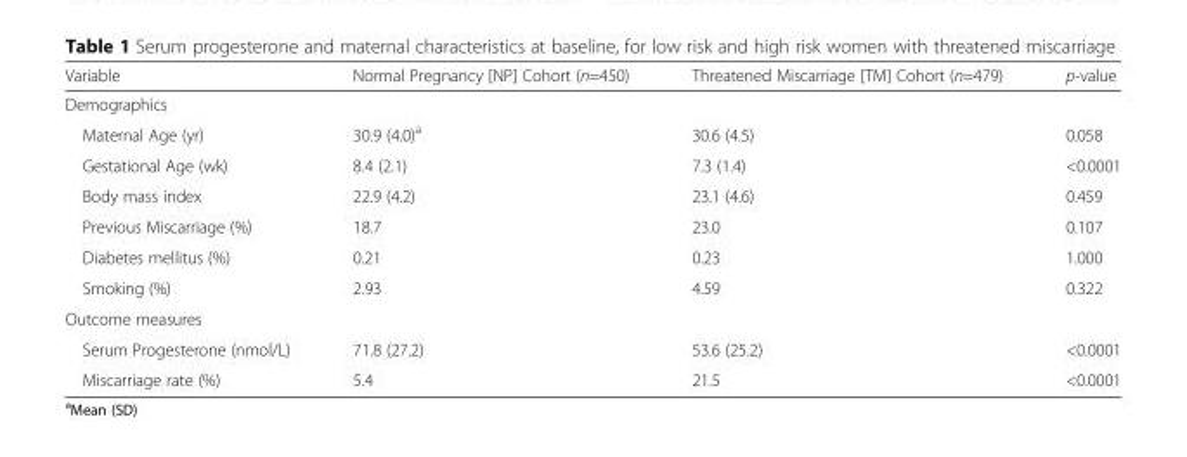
<table><thead><tr><td>Variable</td><td>Normal Pregnancy [NP] Cohort (n=450)</td><td>Threatened Miscarriage [TM] Cohort (n=479)</td><td>p-value</td></tr></thead><tbody><tr><td colspan="4">Demographics</td></tr><tr><td>Maternal Age (yr)</td><td>30.9 (4.0)<sup>a</sup></td><td>30.6 (4.5)</td><td>0.058</td></tr><tr><td>Gestational Age (wk)</td><td>8.4 (2.1)</td><td>7.3 (1.4)</td><td>&lt;0.0001</td></tr><tr><td>Body mass index</td><td>22.9 (4.2)</td><td>23.1 (4.6)</td><td>0.459</td></tr><tr><td>Previous Miscarriage (%)</td><td>18.7</td><td>23.0</td><td>0.107</td></tr><tr><td>Diabetes mellitus (%)</td><td>0.21</td><td>0.23</td><td>1.000</td></tr><tr><td>Smoking (%)</td><td>2.93</td><td>4.59</td><td>0.322</td></tr><tr><td colspan="4">Outcome measures</td></tr><tr><td>Serum Progesterone (nmol/L)</td><td>71.8 (27.2)</td><td>53.6 (25.2)</td><td>&lt;0.0001</td></tr><tr><td>Miscarriage rate (%)</td><td>5.4</td><td>21.5</td><td>&lt;0.0001</td></tr></tbody></table>